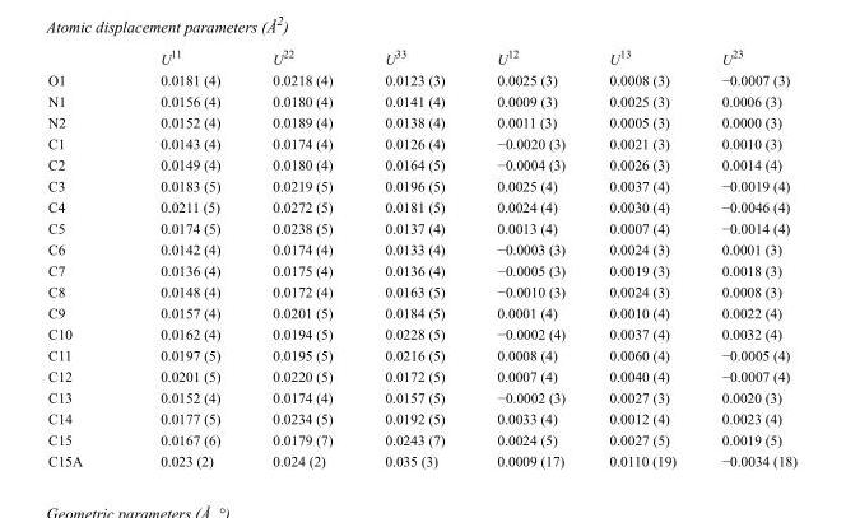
<table><thead><tr><td></td><td>U<sup>11</sup></td><td>U<sup>22</sup></td><td>U<sup>33</sup></td><td>U<sup>12</sup></td><td>U<sup>13</sup></td><td>U<sup>23</sup></td></tr></thead><tbody><tr><td>O1</td><td>0.0181 (4)</td><td>0.0218 (4)</td><td>0.0123 (3)</td><td>0.0025 (3)</td><td>0.0008 (3)</td><td>−0.0007 (3)</td></tr><tr><td>N1</td><td>0.0156 (4)</td><td>0.0180 (4)</td><td>0.0141 (4)</td><td>0.0009 (3)</td><td>0.0025 (3)</td><td>0.0006 (3)</td></tr><tr><td>N2</td><td>0.0152 (4)</td><td>0.0189 (4)</td><td>0.0138 (4)</td><td>0.0011 (3)</td><td>0.0005 (3)</td><td>0.0000 (3)</td></tr><tr><td>C1</td><td>0.0143 (4)</td><td>0.0174 (4)</td><td>0.0126 (4)</td><td>−0.0020 (3)</td><td>0.0021 (3)</td><td>0.0010 (3)</td></tr><tr><td>C2</td><td>0.0149 (4)</td><td>0.0180 (4)</td><td>0.0164 (5)</td><td>−0.0004 (3)</td><td>0.0026 (3)</td><td>0.0014 (4)</td></tr><tr><td>C3</td><td>0.0183 (5)</td><td>0.0219 (5)</td><td>0.0196 (5)</td><td>0.0025 (4)</td><td>0.0037 (4)</td><td>−0.0019 (4)</td></tr><tr><td>C4</td><td>0.0211 (5)</td><td>0.0272 (5)</td><td>0.0181 (5)</td><td>0.0024 (4)</td><td>0.0030 (4)</td><td>−0.0046 (4)</td></tr><tr><td>C5</td><td>0.0174 (5)</td><td>0.0238 (5)</td><td>0.0137 (4)</td><td>0.0013 (4)</td><td>0.0007 (4)</td><td>−0.0014 (4)</td></tr><tr><td>C6</td><td>0.0142 (4)</td><td>0.0174 (4)</td><td>0.0133 (4)</td><td>−0.0003 (3)</td><td>0.0024 (3)</td><td>0.0001 (3)</td></tr><tr><td>C7</td><td>0.0136 (4)</td><td>0.0175 (4)</td><td>0.0136 (4)</td><td>−0.0005 (3)</td><td>0.0019 (3)</td><td>0.0018 (3)</td></tr><tr><td>C8</td><td>0.0148 (4)</td><td>0.0172 (4)</td><td>0.0163 (5)</td><td>−0.0010 (3)</td><td>0.0024 (3)</td><td>0.0008 (3)</td></tr><tr><td>C9</td><td>0.0157 (4)</td><td>0.0201 (5)</td><td>0.0184 (5)</td><td>0.0001 (4)</td><td>0.0010 (4)</td><td>0.0022 (4)</td></tr><tr><td>C10</td><td>0.0162 (4)</td><td>0.0194 (5)</td><td>0.0228 (5)</td><td>−0.0002 (4)</td><td>0.0037 (4)</td><td>0.0032 (4)</td></tr><tr><td>C11</td><td>0.0197 (5)</td><td>0.0195 (5)</td><td>0.0216 (5)</td><td>0.0008 (4)</td><td>0.0060 (4)</td><td>−0.0005 (4)</td></tr><tr><td>C12</td><td>0.0201 (5)</td><td>0.0220 (5)</td><td>0.0172 (5)</td><td>0.0007 (4)</td><td>0.0040 (4)</td><td>−0.0007 (4)</td></tr><tr><td>C13</td><td>0.0152 (4)</td><td>0.0174 (4)</td><td>0.0157 (5)</td><td>−0.0002 (3)</td><td>0.0027 (3)</td><td>0.0020 (3)</td></tr><tr><td>C14</td><td>0.0177 (5)</td><td>0.0234 (5)</td><td>0.0192 (5)</td><td>0.0033 (4)</td><td>0.0012 (4)</td><td>0.0023 (4)</td></tr><tr><td>C15</td><td>0.0167 (6)</td><td>0.0179 (7)</td><td>0.0243 (7)</td><td>0.0024 (5)</td><td>0.0027 (5)</td><td>0.0019 (5)</td></tr><tr><td>C15A</td><td>0.023 (2)</td><td>0.024 (2)</td><td>0.035 (3)</td><td>0.0009 (17)</td><td>0.0110 (19)</td><td>−0.0034 (18)</td></tr></tbody></table>